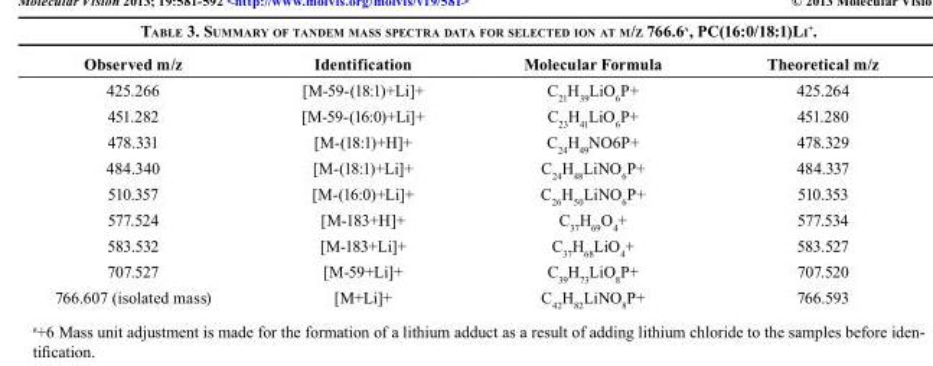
<table><thead><tr><td>Observed m/z</td><td>Identification</td><td>Molecular Formula</td><td>Theoretical m/z</td></tr></thead><tbody><tr><td>425.266</td><td>[M-59-(18:1)+Li]+</td><td>C<sub>21</sub>H<sub>39</sub>LiO<sub>6</sub>P+</td><td>425.264</td></tr><tr><td>451.282</td><td>[M-59-(16:0)+Li]+</td><td>C<sub>23</sub>H<sub>41</sub>LiO<sub>6</sub>P+</td><td>451.280</td></tr><tr><td>478.331</td><td>[M-(18:1)+H]+</td><td>C<sub>24</sub>H<sub>49</sub>NO6P+</td><td>478.329</td></tr><tr><td>484.340</td><td>[M-(18:1)+Li]+</td><td>C<sub>24</sub>H<sub>48</sub>LiNO<sub>6</sub>P+</td><td>484.337</td></tr><tr><td>510.357</td><td>[M-(16:0)+Li]+</td><td>C<sub>26</sub>H<sub>50</sub>LiNO<sub>6</sub>P+</td><td>510.353</td></tr><tr><td>577.524</td><td>[M-183+H]+</td><td>C<sub>37</sub>H<sub>69</sub>O<sub>4</sub>+</td><td>577.534</td></tr><tr><td>583.532</td><td>[M-183+Li]+</td><td>C<sub>37</sub>H<sub>68</sub>LiO<sub>4</sub>+</td><td>583.527</td></tr><tr><td>707.527</td><td>[M-59+Li]+</td><td>C<sub>39</sub>H<sub>73</sub>LiO<sub>8</sub>P+</td><td>707.520</td></tr><tr><td>766.607 (isolated mass)</td><td>[M+Li]+</td><td>C<sub>42</sub>H<sub>82</sub>LiNO<sub>8</sub>P+</td><td>766.593</td></tr></tbody></table>